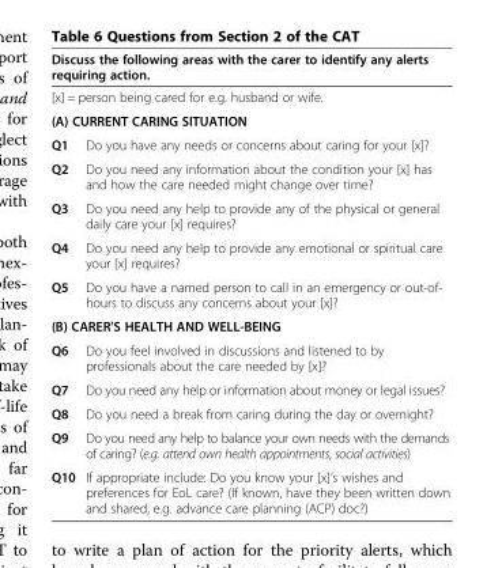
<table><thead><tr><td rowspan="3" colspan="2">Discuss the following areas with the carer to identify any alerts requiring action. [x] = person being cared for e.g. husband or wife. (A) CURRENT CARING SITUATION</td></tr><tr></tr><tr></tr><tr><td>Q1</td><td>Do you have any needs or concerns about caring for your [x]?</td></tr></thead><tbody><tr><td>Q2</td><td>Do you need any information about the condition your [x] has and how the care needed might change over time?</td></tr><tr><td>Q3</td><td>Do you need any help to provide any of the physical or general daily care your [x] requires?</td></tr><tr><td>Q4</td><td>Do you need any help to provide any emotional or spiritual care your [x] requires?</td></tr><tr><td>Q5</td><td>Do you have a named person to call in an emergency or out-of- hours to discuss any concerns about your [x]?</td></tr><tr><td colspan="2">(B) CARER’S HEALTH AND WELL-BEING</td></tr><tr><td>Q6</td><td>Do you feel involved in discussions and listened to by professionals about the care needed by [x]?</td></tr><tr><td>Q7</td><td>Do you need any help or information about money or legal issues?</td></tr><tr><td>Q8</td><td>Do you need a break from caring during the day or overnight?</td></tr><tr><td>Q9</td><td>Do you need any help to balance your own needs with the demands of caring? (e.g. attend own health appointments, social activities)</td></tr><tr><td>Q10</td><td>If appropriate include: Do you know your [x]’s wishes and preferences for EoL care? (If known, have they been written down and shared, e.g. advance care planning (ACP) doc?)</td></tr></tbody></table>